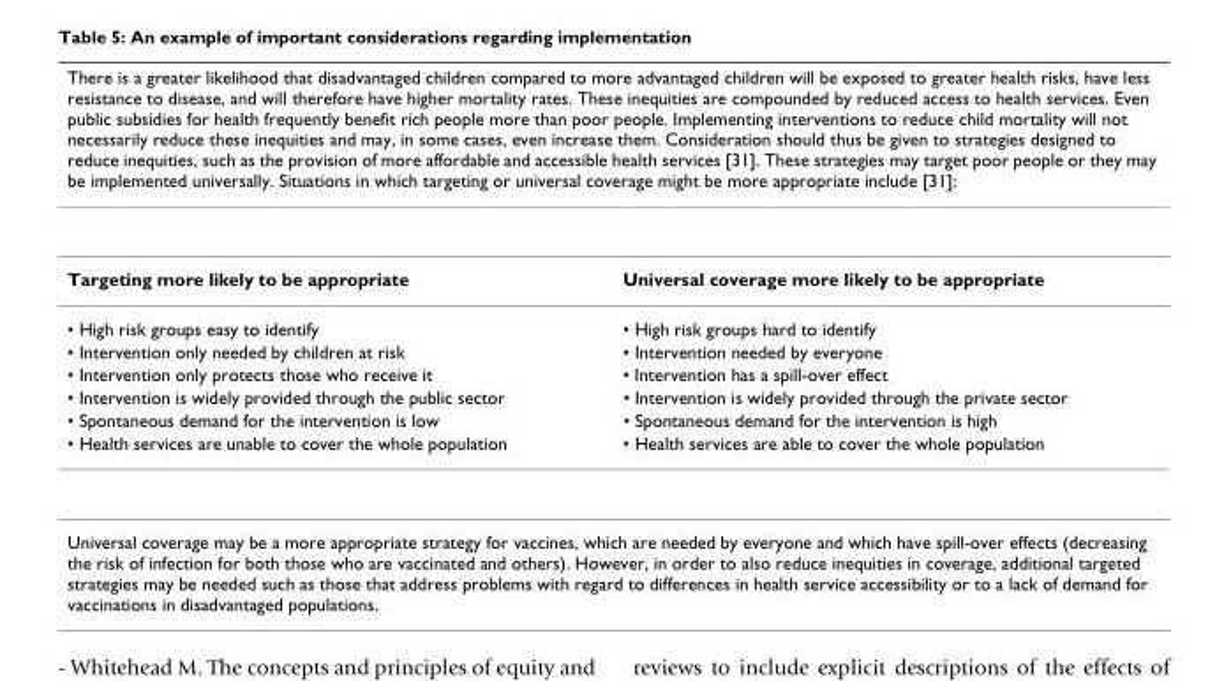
<table><thead><tr><td colspan="2">There is a greater likelihood that disadvantaged children compared to more advantaged children will be exposed to greater health risks, have less resistance to disease, and will therefore have higher mortality rates. These inequities are compounded by reduced access to health services. Even public subsidies for health frequently benefit rich people more than poor people. Implementing interventions to reduce child mortality will not necessarily reduce these inequities and may, in some cases, even increase them. Consideration should thus be given to strategies designed to reduce inequities, such as the provision of more affordable and accessible health services [31]. These strategies may target poor people or they may be implemented universally. Situations in which targeting or universal coverage might be more appropriate include [31]:</td></tr><tr><td>Targeting more likely to be appropriate</td><td>Universal coverage more likely to be appropriate</td></tr></thead><tbody><tr><td>• High risk groups easy to identify</td><td>• High risk groups hard to identify</td></tr><tr><td>• Intervention only needed by children at risk</td><td>• Intervention needed by everyone</td></tr><tr><td>• Intervention only protects those who receive it</td><td>• Intervention has a spill-over effect</td></tr><tr><td>• Intervention is widely provided through the public sector</td><td>• Intervention is widely provided through the private sector</td></tr><tr><td>• Spontaneous demand for the intervention is low</td><td>• Spontaneous demand for the intervention is high</td></tr><tr><td>• Health services are unable to cover the whole population</td><td>• Health services are able to cover the whole population</td></tr><tr><td colspan="2">Universal coverage may be a more appropriate strategy for vaccines, which are needed by everyone and which have spill-over effects (decreasing the risk of infection for both those who are vaccinated and others). However, in order to also reduce inequities in coverage, additional targeted strategies may be needed such as those that address problems with regard to differences in health service accessibility or to a lack of demand for vaccinations in disadvantaged populations.</td></tr></tbody></table>